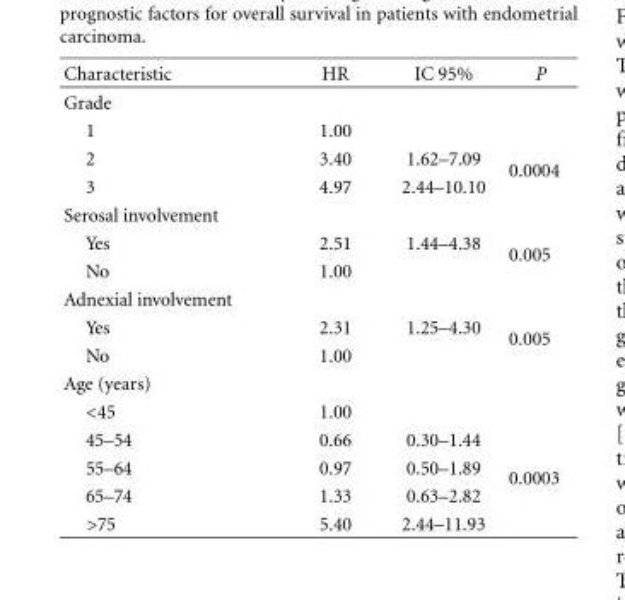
<table><thead><tr><td>Characteristic</td><td>HR</td><td>IC 95%</td><td>P</td></tr></thead><tbody><tr><td colspan="4">Grade</td></tr><tr><td>1</td><td>1.00</td><td></td><td></td></tr><tr><td>2</td><td>3.40</td><td>1.62–7.09</td><td rowspan="2">0.0004</td></tr><tr><td>3</td><td>4.97</td><td>2.44–10.10</td></tr><tr><td colspan="4">Serosal involvement</td></tr><tr><td>Yes</td><td>2.51</td><td>1.44–4.38</td><td rowspan="2">0.005</td></tr><tr><td>No</td><td>1.00</td><td></td></tr><tr><td colspan="4">Adnexial involvement</td></tr><tr><td>Yes</td><td>2.31</td><td>1.25–4.30</td><td rowspan="2">0.005</td></tr><tr><td>No</td><td>1.00</td><td></td></tr><tr><td colspan="4">Age (years)</td></tr><tr><td>&lt;45</td><td>1.00</td><td></td><td></td></tr><tr><td>45–54</td><td>0.66</td><td>0.30–1.44</td><td rowspan="4">0.0003</td></tr><tr><td>55–64</td><td>0.97</td><td>0.50–1.89</td></tr><tr><td>65–74</td><td>1.33</td><td>0.63–2.82</td></tr><tr><td>&gt;75</td><td>5.40</td><td>2.44–11.93</td></tr></tbody></table>